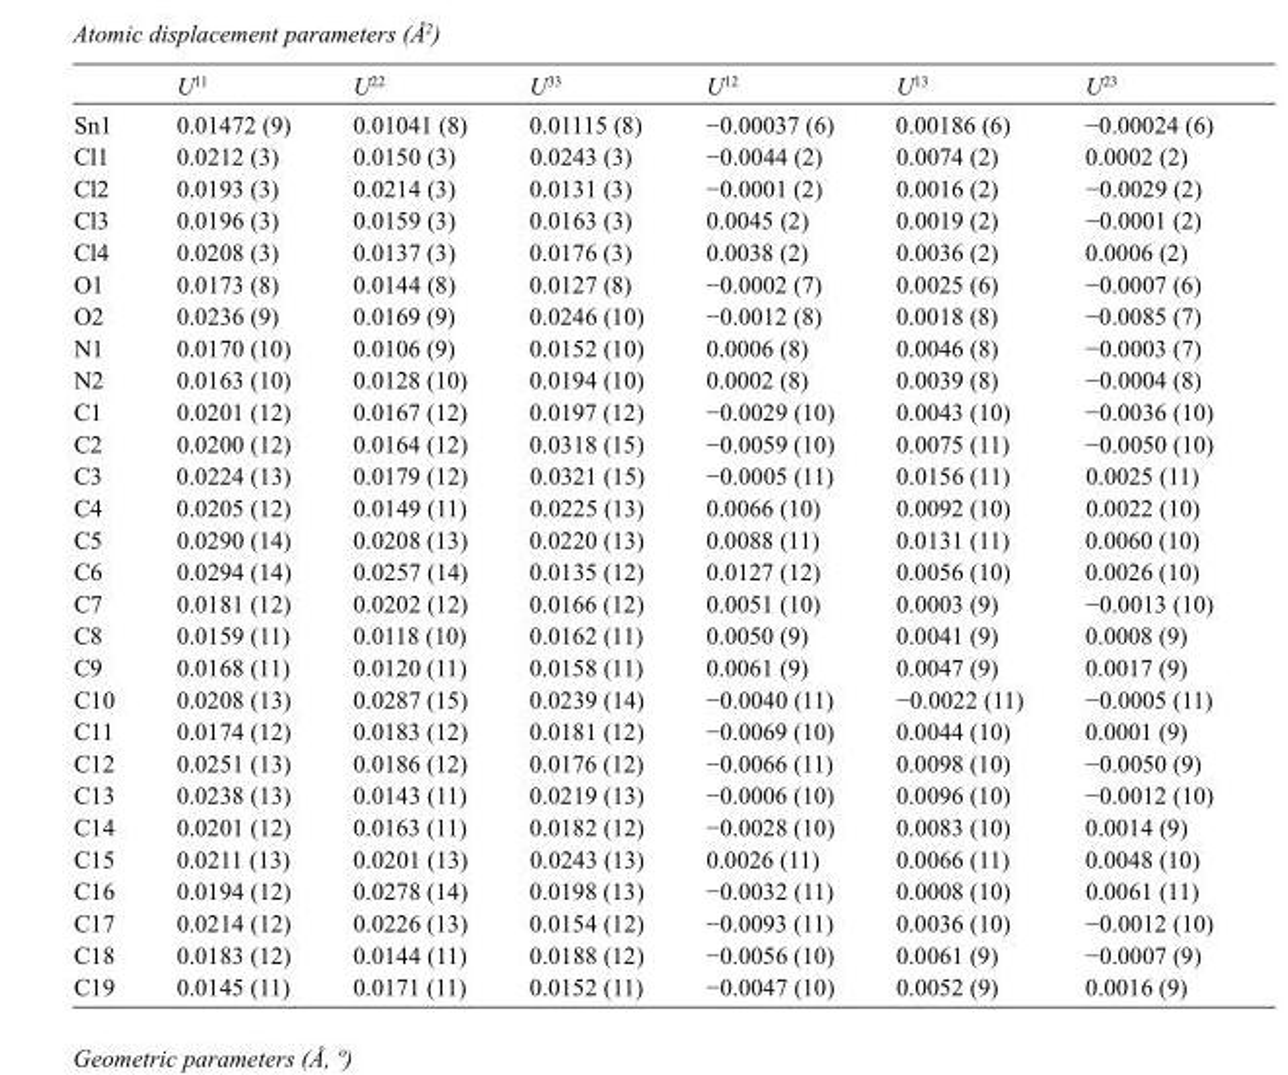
<table><thead><tr><td></td><td>U<sup>11</sup></td><td>U<sup>22</sup></td><td>U<sup>33</sup></td><td>U<sup>12</sup></td><td>U<sup>13</sup></td><td>U<sup>23</sup></td></tr></thead><tbody><tr><td>Sn1</td><td>0.01472 (9)</td><td>0.01041 (8)</td><td>0.01115 (8)</td><td>−0.00037 (6)</td><td>0.00186 (6)</td><td>−0.00024 (6)</td></tr><tr><td>Cl1</td><td>0.0212 (3)</td><td>0.0150 (3)</td><td>0.0243 (3)</td><td>−0.0044 (2)</td><td>0.0074 (2)</td><td>0.0002 (2)</td></tr><tr><td>Cl2</td><td>0.0193 (3)</td><td>0.0214 (3)</td><td>0.0131 (3)</td><td>−0.0001 (2)</td><td>0.0016 (2)</td><td>−0.0029 (2)</td></tr><tr><td>Cl3</td><td>0.0196 (3)</td><td>0.0159 (3)</td><td>0.0163 (3)</td><td>0.0045 (2)</td><td>0.0019 (2)</td><td>−0.0001 (2)</td></tr><tr><td>Cl4</td><td>0.0208 (3)</td><td>0.0137 (3)</td><td>0.0176 (3)</td><td>0.0038 (2)</td><td>0.0036 (2)</td><td>0.0006 (2)</td></tr><tr><td>O1</td><td>0.0173 (8)</td><td>0.0144 (8)</td><td>0.0127 (8)</td><td>−0.0002 (7)</td><td>0.0025 (6)</td><td>−0.0007 (6)</td></tr><tr><td>O2</td><td>0.0236 (9)</td><td>0.0169 (9)</td><td>0.0246 (10)</td><td>−0.0012 (8)</td><td>0.0018 (8)</td><td>−0.0085 (7)</td></tr><tr><td>N1</td><td>0.0170 (10)</td><td>0.0106 (9)</td><td>0.0152 (10)</td><td>0.0006 (8)</td><td>0.0046 (8)</td><td>−0.0003 (7)</td></tr><tr><td>N2</td><td>0.0163 (10)</td><td>0.0128 (10)</td><td>0.0194 (10)</td><td>0.0002 (8)</td><td>0.0039 (8)</td><td>−0.0004 (8)</td></tr><tr><td>C1</td><td>0.0201 (12)</td><td>0.0167 (12)</td><td>0.0197 (12)</td><td>−0.0029 (10)</td><td>0.0043 (10)</td><td>−0.0036 (10)</td></tr><tr><td>C2</td><td>0.0200 (12)</td><td>0.0164 (12)</td><td>0.0318 (15)</td><td>−0.0059 (10)</td><td>0.0075 (11)</td><td>−0.0050 (10)</td></tr><tr><td>C3</td><td>0.0224 (13)</td><td>0.0179 (12)</td><td>0.0321 (15)</td><td>−0.0005 (11)</td><td>0.0156 (11)</td><td>0.0025 (11)</td></tr><tr><td>C4</td><td>0.0205 (12)</td><td>0.0149 (11)</td><td>0.0225 (13)</td><td>0.0066 (10)</td><td>0.0092 (10)</td><td>0.0022 (10)</td></tr><tr><td>C5</td><td>0.0290 (14)</td><td>0.0208 (13)</td><td>0.0220 (13)</td><td>0.0088 (11)</td><td>0.0131 (11)</td><td>0.0060 (10)</td></tr><tr><td>C6</td><td>0.0294 (14)</td><td>0.0257 (14)</td><td>0.0135 (12)</td><td>0.0127 (12)</td><td>0.0056 (10)</td><td>0.0026 (10)</td></tr><tr><td>C7</td><td>0.0181 (12)</td><td>0.0202 (12)</td><td>0.0166 (12)</td><td>0.0051 (10)</td><td>0.0003 (9)</td><td>−0.0013 (10)</td></tr><tr><td>C8</td><td>0.0159 (11)</td><td>0.0118 (10)</td><td>0.0162 (11)</td><td>0.0050 (9)</td><td>0.0041 (9)</td><td>0.0008 (9)</td></tr><tr><td>C9</td><td>0.0168 (11)</td><td>0.0120 (11)</td><td>0.0158 (11)</td><td>0.0061 (9)</td><td>0.0047 (9)</td><td>0.0017 (9)</td></tr><tr><td>C10</td><td>0.0208 (13)</td><td>0.0287 (15)</td><td>0.0239 (14)</td><td>−0.0040 (11)</td><td>−0.0022 (11)</td><td>−0.0005 (11)</td></tr><tr><td>C11</td><td>0.0174 (12)</td><td>0.0183 (12)</td><td>0.0181 (12)</td><td>−0.0069 (10)</td><td>0.0044 (10)</td><td>0.0001 (9)</td></tr><tr><td>C12</td><td>0.0251 (13)</td><td>0.0186 (12)</td><td>0.0176 (12)</td><td>−0.0066 (11)</td><td>0.0098 (10)</td><td>−0.0050 (9)</td></tr><tr><td>C13</td><td>0.0238 (13)</td><td>0.0143 (11)</td><td>0.0219 (13)</td><td>−0.0006 (10)</td><td>0.0096 (10)</td><td>−0.0012 (10)</td></tr><tr><td>C14</td><td>0.0201 (12)</td><td>0.0163 (11)</td><td>0.0182 (12)</td><td>−0.0028 (10)</td><td>0.0083 (10)</td><td>0.0014 (9)</td></tr><tr><td>C15</td><td>0.0211 (13)</td><td>0.0201 (13)</td><td>0.0243 (13)</td><td>0.0026 (11)</td><td>0.0066 (11)</td><td>0.0048 (10)</td></tr><tr><td>C16</td><td>0.0194 (12)</td><td>0.0278 (14)</td><td>0.0198 (13)</td><td>−0.0032 (11)</td><td>0.0008 (10)</td><td>0.0061 (11)</td></tr><tr><td>C17</td><td>0.0214 (12)</td><td>0.0226 (13)</td><td>0.0154 (12)</td><td>−0.0093 (11)</td><td>0.0036 (10)</td><td>−0.0012 (10)</td></tr><tr><td>C18</td><td>0.0183 (12)</td><td>0.0144 (11)</td><td>0.0188 (12)</td><td>−0.0056 (10)</td><td>0.0061 (9)</td><td>−0.0007 (9)</td></tr><tr><td>C19</td><td>0.0145 (11)</td><td>0.0171 (11)</td><td>0.0152 (11)</td><td>−0.0047 (10)</td><td>0.0052 (9)</td><td>0.0016 (9)</td></tr></tbody></table>